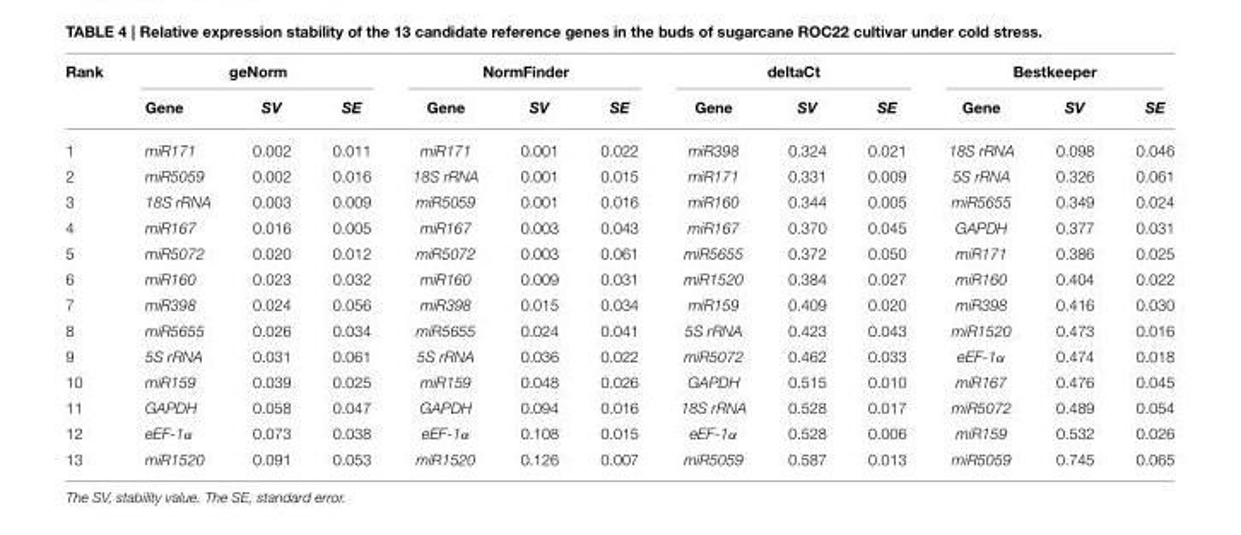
<table><thead><tr><td rowspan="2">Rank</td><td colspan="3">geNorm</td><td colspan="3">NormFinder</td><td colspan="3">deltaCt</td><td colspan="3">Bestkeeper</td></tr><tr><td>Gene</td><td>SV</td><td>SE</td><td>Gene</td><td>SV</td><td>SE</td><td>Gene</td><td>SV</td><td>SE</td><td>Gene</td><td>SV</td><td>SE</td></tr></thead><tbody><tr><td>1</td><td>miR171</td><td>0.002</td><td>0.011</td><td>miR171</td><td>0.001</td><td>0.022</td><td>miR398</td><td>0.324</td><td>0.021</td><td>18S rRNA</td><td>0.098</td><td>0.046</td></tr><tr><td>2</td><td>miR5059</td><td>0.002</td><td>0.016</td><td>18S rRNA</td><td>0.001</td><td>0.015</td><td>miR171</td><td>0.331</td><td>0.009</td><td>5S rRNA</td><td>0.326</td><td>0.061</td></tr><tr><td>3</td><td>18S rRNA</td><td>0.003</td><td>0.009</td><td>miR5059</td><td>0.001</td><td>0.016</td><td>miR160</td><td>0.344</td><td>0.005</td><td>miR5655</td><td>0.349</td><td>0.024</td></tr><tr><td>4</td><td>miR167</td><td>0.016</td><td>0.005</td><td>miR167</td><td>0.003</td><td>0.043</td><td>miR167</td><td>0.370</td><td>0.045</td><td>GAPDH</td><td>0.377</td><td>0.031</td></tr><tr><td>5</td><td>miR5072</td><td>0.020</td><td>0.012</td><td>miR5072</td><td>0.003</td><td>0.061</td><td>miR5655</td><td>0.372</td><td>0.050</td><td>miR171</td><td>0.386</td><td>0.025</td></tr><tr><td>6</td><td>miR160</td><td>0.023</td><td>0.032</td><td>miR160</td><td>0.009</td><td>0.031</td><td>miR1520</td><td>0.384</td><td>0.027</td><td>miR160</td><td>0.404</td><td>0.022</td></tr><tr><td>7</td><td>miR398</td><td>0.024</td><td>0.056</td><td>miR398</td><td>0.015</td><td>0.034</td><td>miR159</td><td>0.409</td><td>0.020</td><td>miR398</td><td>0.416</td><td>0.030</td></tr><tr><td>8</td><td>miR5655</td><td>0.026</td><td>0.034</td><td>miR5655</td><td>0.024</td><td>0.041</td><td>5S rRNA</td><td>0.423</td><td>0.043</td><td>miR1520</td><td>0.473</td><td>0.016</td></tr><tr><td>9</td><td>5S rRNA</td><td>0.031</td><td>0.061</td><td>5S rRNA</td><td>0.036</td><td>0.022</td><td>miR5072</td><td>0.462</td><td>0.033</td><td>eEF-1α</td><td>0.474</td><td>0.018</td></tr><tr><td>10</td><td>miR159</td><td>0.039</td><td>0.025</td><td>miR159</td><td>0.048</td><td>0.026</td><td>GAPDH</td><td>0.515</td><td>0.010</td><td>miR167</td><td>0.476</td><td>0.045</td></tr><tr><td>11</td><td>GAPDH</td><td>0.058</td><td>0.047</td><td>GAPDH</td><td>0.094</td><td>0.016</td><td>18S rRNA</td><td>0.528</td><td>0.017</td><td>miR5072</td><td>0.489</td><td>0.054</td></tr><tr><td>12</td><td>eEF-1α</td><td>0.073</td><td>0.038</td><td>eEF-1α</td><td>0.108</td><td>0.015</td><td>eEF-1α</td><td>0.528</td><td>0.006</td><td>miR159</td><td>0.532</td><td>0.026</td></tr><tr><td>13</td><td>miR1520</td><td>0.091</td><td>0.053</td><td>miR1520</td><td>0.126</td><td>0.007</td><td>miR5059</td><td>0.587</td><td>0.013</td><td>miR5059</td><td>0.745</td><td>0.065</td></tr></tbody></table>